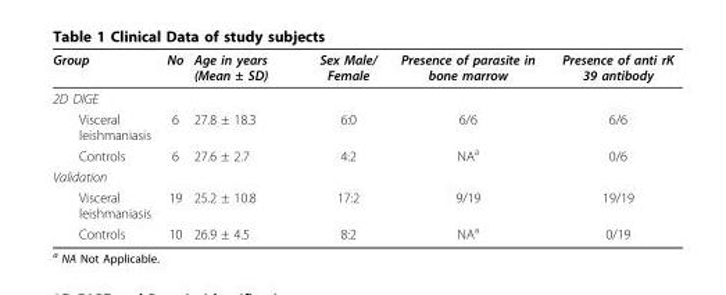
<table><thead><tr><td>Group</td><td>No</td><td>Age in years (Mean ± SD)</td><td>Sex Male/ Female</td><td>Presence of parasite in bone marrow</td><td>Presence of anti rK 39 antibody</td></tr></thead><tbody><tr><td colspan="6">2D DIGE</td></tr><tr><td>Visceral leishmaniasis</td><td>6</td><td>27.8 ± 18.3</td><td>6:0</td><td>6/6</td><td>6/6</td></tr><tr><td>Controls</td><td>6</td><td>27.6 ± 2.7</td><td>4:2</td><td>NA<sup>a</sup></td><td>0/6</td></tr><tr><td colspan="6">Validation</td></tr><tr><td>Visceral leishmaniasis</td><td>19</td><td>25.2 ± 10.8</td><td>17:2</td><td>9/19</td><td>19/19</td></tr><tr><td>Controls</td><td>10</td><td>26.9 ± 4.5</td><td>8:2</td><td>NA<sup>a</sup></td><td>0/19</td></tr></tbody></table>